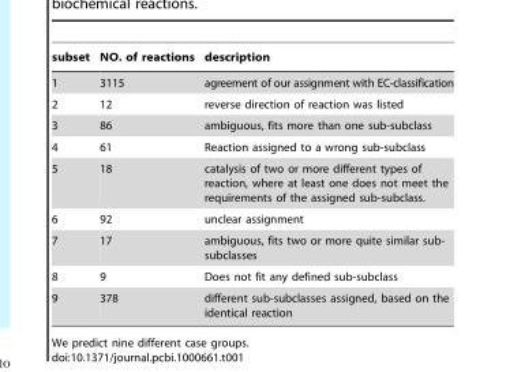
<table><thead><tr><td>subset</td><td>NO. of reactions</td><td>description</td></tr></thead><tbody><tr><td>1</td><td>3115</td><td>agreement of our assignment with EC-classification</td></tr><tr><td>2</td><td>12</td><td>reverse direction of reaction was listed</td></tr><tr><td>3</td><td>86</td><td>ambiguous, fits more than one sub-subclass</td></tr><tr><td>4</td><td>61</td><td>Reaction assigned to a wrong sub-subclass</td></tr><tr><td>5</td><td>18</td><td>catalysis of two or more different types of reaction, where at least one does not meet the requirements of the assigned sub-subclass.</td></tr><tr><td>6</td><td>92</td><td>unclear assignment</td></tr><tr><td>7</td><td>17</td><td>ambiguous, fits two or more quite similar sub- subclasses</td></tr><tr><td>8</td><td>9</td><td>Does not fit any defined sub-subclass</td></tr><tr><td>9</td><td>378</td><td>different sub-subclasses assigned, based on the identical reaction</td></tr></tbody></table>